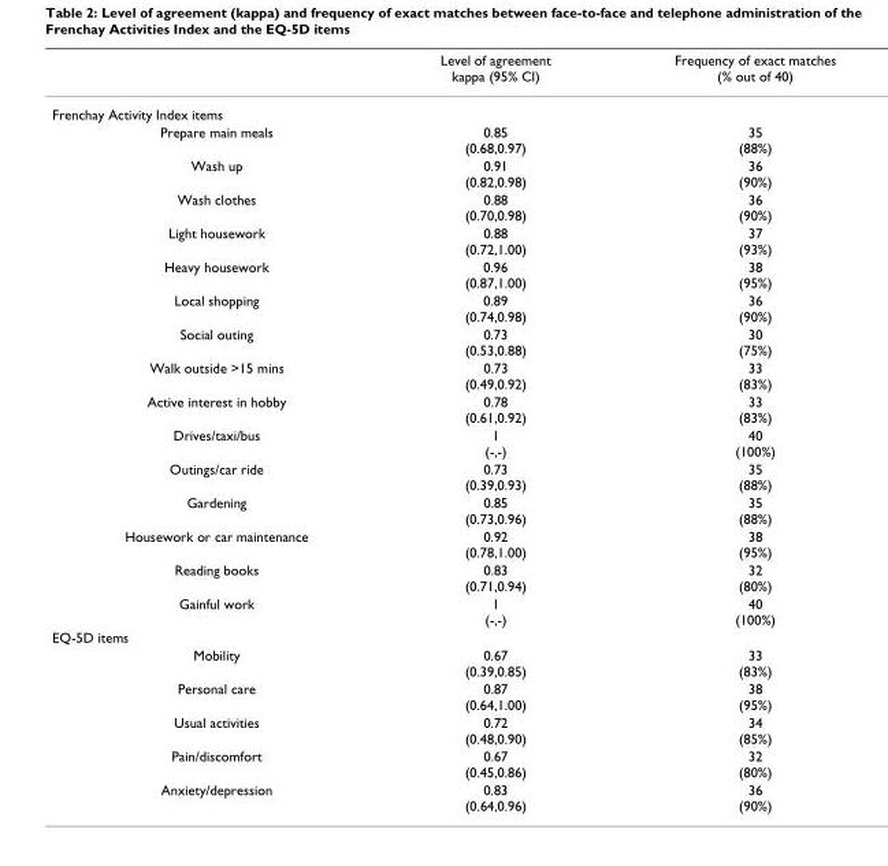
<table><thead><tr><td></td><td>Level of agreement kappa (95% CI)</td><td>Frequency of exact matches (% out of 40)</td></tr></thead><tbody><tr><td colspan="3">Frenchay Activity Index items</td></tr><tr><td>Prepare main meals</td><td>0.85 (0.68,0.97)</td><td>35 (88%)</td></tr><tr><td>Wash up</td><td>0.91 (0.82,0.98)</td><td>36 (90%)</td></tr><tr><td>Wash clothes</td><td>0.88 (0.70,0.98)</td><td>36 (90%)</td></tr><tr><td>Light housework</td><td>0.88 (0.72,1.00)</td><td>37 (93%)</td></tr><tr><td>Heavy housework</td><td>0.96 (0.87,1.00)</td><td>38 (95%)</td></tr><tr><td>Local shopping</td><td>0.89 (0.74,0.98)</td><td>36 (90%)</td></tr><tr><td>Social outing</td><td>0.73 (0.53,0.88)</td><td>30 (75%)</td></tr><tr><td>Walk outside &gt;15 mins</td><td>0.73 (0.49,0.92)</td><td>33 (83%)</td></tr><tr><td>Active interest in hobby</td><td>0.78 (0.61,0.92)</td><td>33 (83%)</td></tr><tr><td>Drives/taxi/bus</td><td>1 (-,-)</td><td>40 (100%)</td></tr><tr><td>Outings/car ride</td><td>0.73 (0.39,0.93)</td><td>35 (88%)</td></tr><tr><td>Gardening</td><td>0.85 (0.73,0.96)</td><td>35 (88%)</td></tr><tr><td>Housework or car maintenance</td><td>0.92 (0.78,1.00)</td><td>38 (95%)</td></tr><tr><td>Reading books</td><td>0.83 (0.71,0.94)</td><td>32 (80%)</td></tr><tr><td>Gainful work</td><td>1 (-,-)</td><td>40 (100%)</td></tr><tr><td colspan="3">EQ-5D items</td></tr><tr><td>Mobility</td><td>0.67 (0.39,0.85)</td><td>33 (83%)</td></tr><tr><td>Personal care</td><td>0.87 (0.64,1.00)</td><td>38 (95%)</td></tr><tr><td>Usual activities</td><td>0.72 (0.48,0.90)</td><td>34 (85%)</td></tr><tr><td>Pain/discomfort</td><td>0.67 (0.45,0.86)</td><td>32 (80%)</td></tr><tr><td>Anxiety/depression</td><td>0.83 (0.64,0.96)</td><td>36 (90%)</td></tr></tbody></table>